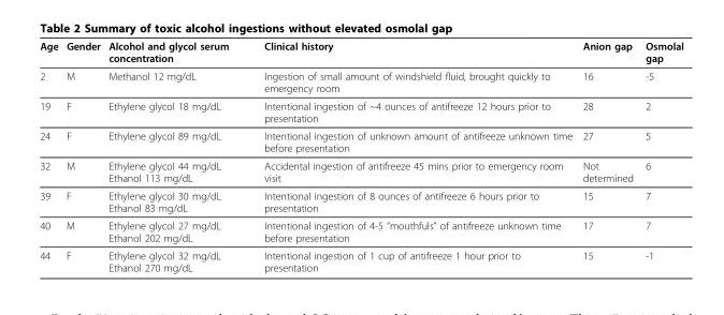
<table><thead><tr><td>Age</td><td>Gender</td><td>Alcohol and glycol serum concentration</td><td>Clinical history</td><td>Anion gap</td><td>Osmolal gap</td></tr></thead><tbody><tr><td>2</td><td>M</td><td>Methanol 12 mg/dL</td><td>Ingestion of small amount of windshield fluid, brought quickly to emergency room</td><td>16</td><td>-5</td></tr><tr><td>19</td><td>F</td><td>Ethylene glycol 18 mg/dL</td><td>Intentional ingestion of ~4 ounces of antifreeze 12 hours prior to presentation</td><td>28</td><td>2</td></tr><tr><td>24</td><td>F</td><td>Ethylene glycol 89 mg/dL</td><td>Intentional ingestion of unknown amount of antifreeze unknown time before presentation</td><td>27</td><td>5</td></tr><tr><td>32</td><td>M</td><td>Ethylene glycol 44 mg/dL Ethanol 113 mg/dL</td><td>Accidental ingestion of antifreeze 45 mins prior to emergency room visit</td><td>Not determined</td><td>6</td></tr><tr><td>39</td><td>F</td><td>Ethylene glycol 30 mg/dL Ethanol 83 mg/dL</td><td>Intentional ingestion of 8 ounces of antifreeze 6 hours prior to presentation</td><td>15</td><td>7</td></tr><tr><td>40</td><td>M</td><td>Ethylene glycol 27 mg/dL Ethanol 202 mg/dL</td><td>Intentional ingestion of 4-5 “mouthfuls” of antifreeze unknown time before presentation</td><td>17</td><td>7</td></tr><tr><td>44</td><td>F</td><td>Ethylene glycol 32 mg/dL Ethanol 270 mg/dL</td><td>Intentional ingestion of 1 cup of antifreeze 1 hour prior to presentation</td><td>15</td><td>-1</td></tr></tbody></table>